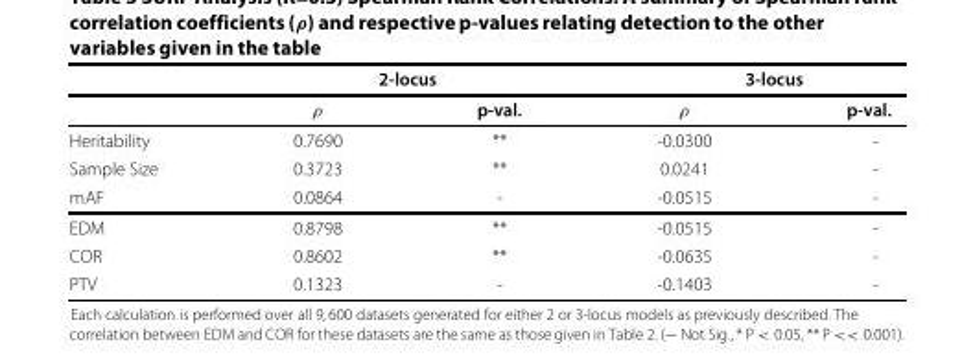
<table><thead><tr><td rowspan="2"></td><td colspan="2">2-locus</td><td colspan="2">3-locus</td></tr><tr><td>ρ</td><td>p-val.</td><td>ρ</td><td>p-val.</td></tr></thead><tbody><tr><td>Heritability</td><td>0.7690</td><td>**</td><td>-0.0300</td><td>-</td></tr><tr><td>Sample Size</td><td>0.3723</td><td>**</td><td>0.0241</td><td>-</td></tr><tr><td>mAF</td><td>0.0864</td><td>-</td><td>-0.0515</td><td>-</td></tr><tr><td>EDM</td><td>0.8798</td><td>**</td><td>-0.0515</td><td>-</td></tr><tr><td>COR</td><td>0.8602</td><td>**</td><td>-0.0635</td><td>-</td></tr><tr><td>PTV</td><td>0.1323</td><td>-</td><td>-0.1403</td><td>-</td></tr></tbody></table>